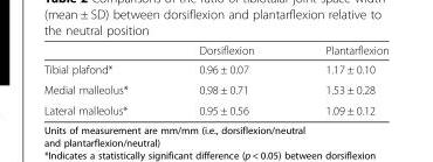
<table><thead><tr><td></td><td>Dorsiflexion</td><td>Plantarflexion</td></tr></thead><tbody><tr><td>Tibial plafond*</td><td>0.96 ± 0.07</td><td>1.17 ± 0.10</td></tr><tr><td>Medial malleolus*</td><td>0.98 ± 0.71</td><td>1.53 ± 0.28</td></tr><tr><td>Lateral malleolus*</td><td>0.95 ± 0.56</td><td>1.09 ± 0.12</td></tr></tbody></table>